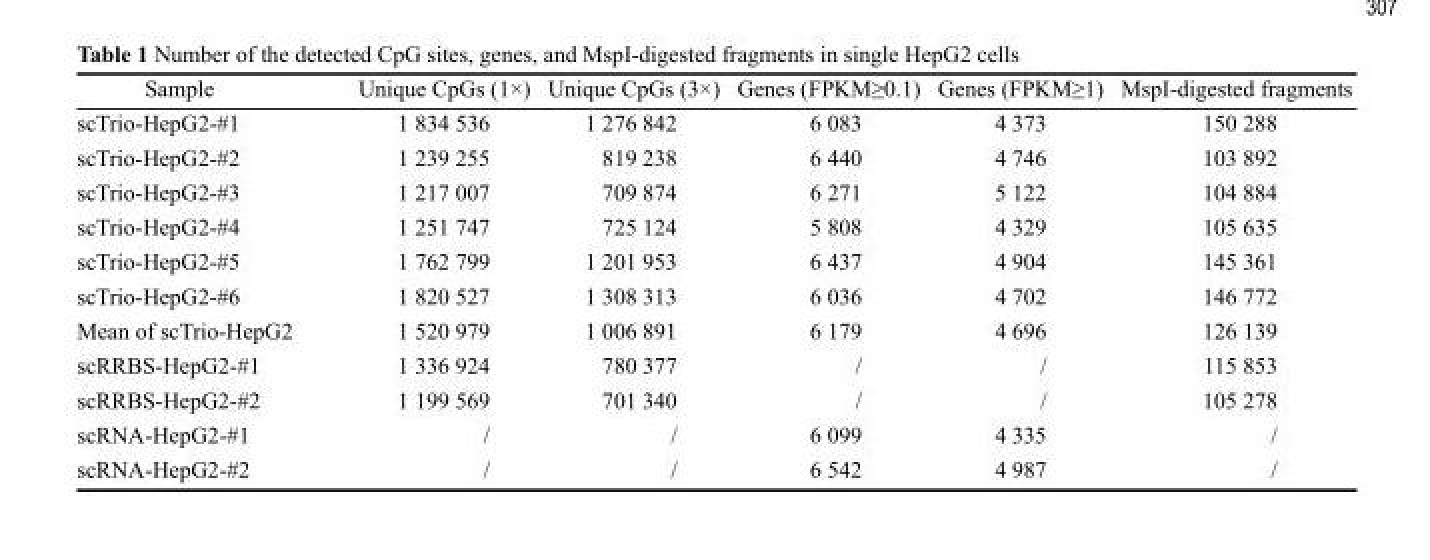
<table><thead><tr><td>Sample</td><td>Unique CpGs (1×)</td><td>Unique CpGs (3×)</td><td>Genes (FPKM≥0.1)</td><td>Genes (FPKM≥1)</td><td>MspI-digested fragments</td></tr></thead><tbody><tr><td>scTrio-HepG2-#1</td><td>1 834 536</td><td>1 276 842</td><td>6 083</td><td>4 373</td><td>150 288</td></tr><tr><td>scTrio-HepG2-#2</td><td>1 239 255</td><td>819 238</td><td>6 440</td><td>4 746</td><td>103 892</td></tr><tr><td>scTrio-HepG2-#3</td><td>1 217 007</td><td>709 874</td><td>6 271</td><td>5 122</td><td>104 884</td></tr><tr><td>scTrio-HepG2-#4</td><td>1 251 747</td><td>725 124</td><td>5 808</td><td>4 329</td><td>105 635</td></tr><tr><td>scTrio-HepG2-#5</td><td>1 762 799</td><td>1 201 953</td><td>6 437</td><td>4 904</td><td>145 361</td></tr><tr><td>scTrio-HepG2-#6</td><td>1 820 527</td><td>1 308 313</td><td>6 036</td><td>4 702</td><td>146 772</td></tr><tr><td>Mean of scTrio-HepG2</td><td>1 520 979</td><td>1 006 891</td><td>6 179</td><td>4 696</td><td>126 139</td></tr><tr><td>scRRBS-HepG2-#1</td><td>1 336 924</td><td>780 377</td><td>/</td><td>/</td><td>115 853</td></tr><tr><td>scRRBS-HepG2-#2</td><td>1 199 569</td><td>701 340</td><td>/</td><td>/</td><td>105 278</td></tr><tr><td>scRNA-HepG2-#1</td><td>/</td><td>/</td><td>6 099</td><td>4 335</td><td>/</td></tr><tr><td>scRNA-HepG2-#2</td><td>/</td><td>/</td><td>6 542</td><td>4 987</td><td>/</td></tr></tbody></table>